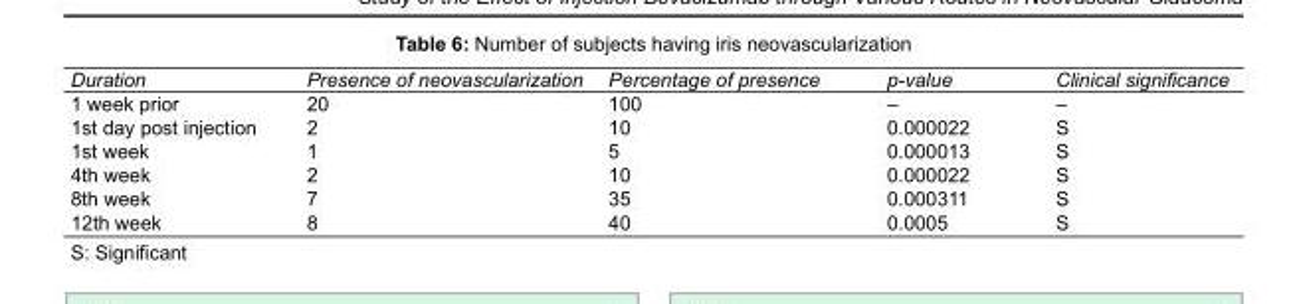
<table><tbody><tr><td>Duration</td><td>Presence of neovascularization</td><td>Percentage of presence</td><td>p-value</td><td>Clinical significance</td></tr><tr><td>1 week prior</td><td>20</td><td>100</td><td>–</td><td>–</td></tr><tr><td>1st day post injection</td><td>2</td><td>10</td><td>0.000022</td><td>S</td></tr><tr><td>1st week</td><td>1</td><td>5</td><td>0.000013</td><td>S</td></tr><tr><td>4th week</td><td>2</td><td>10</td><td>0.000022</td><td>S</td></tr><tr><td>8th week</td><td>7</td><td>35</td><td>0.000311</td><td>S</td></tr><tr><td>12th week</td><td>8</td><td>40</td><td>0.0005</td><td>S</td></tr></tbody></table>